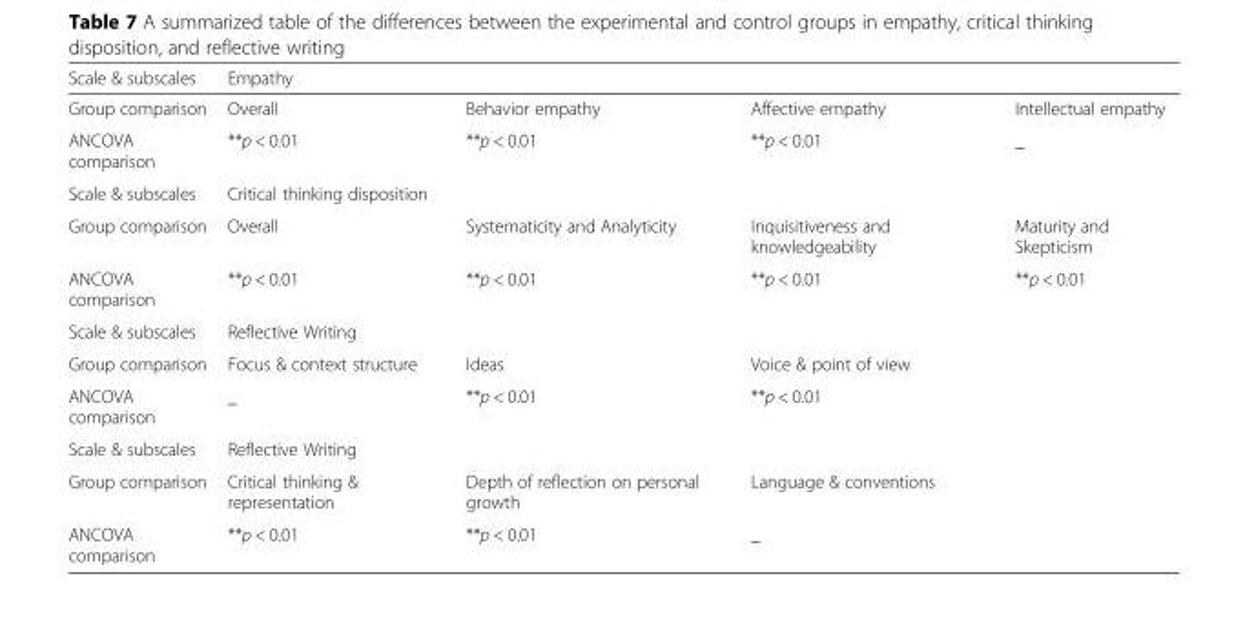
<table><thead><tr><td rowspan="2">Scale &amp; subscales Group comparison</td><td colspan="4">Empathy</td></tr><tr><td>Overall</td><td>Behavior empathy</td><td>Affective empathy</td><td>Intellectual empathy</td></tr></thead><tbody><tr><td>ANCOVA comparison</td><td>**p &lt; 0.01</td><td>**p &lt; 0.01</td><td>**p &lt; 0.01</td><td>_</td></tr><tr><td>Scale &amp; subscales</td><td colspan="4">Critical thinking disposition</td></tr><tr><td>Group comparison</td><td>Overall</td><td>Systematicity and Analyticity</td><td>Inquisitiveness and knowledgeability</td><td>Maturity and Skepticism</td></tr><tr><td>ANCOVA comparison</td><td>**p &lt; 0.01</td><td>**p &lt; 0.01</td><td>**p &lt; 0.01</td><td>**p &lt; 0.01</td></tr><tr><td>Scale &amp; subscales</td><td colspan="4">Reflective Writing</td></tr><tr><td>Group comparison</td><td>Focus &amp; context structure</td><td>Ideas</td><td>Voice &amp; point of view</td><td></td></tr><tr><td>ANCOVA comparison</td><td>_</td><td>**p &lt; 0.01</td><td>**p &lt; 0.01</td><td></td></tr><tr><td>Scale &amp; subscales</td><td colspan="3">Reflective Writing</td><td></td></tr><tr><td>Group comparison</td><td>Critical thinking &amp; representation</td><td>Depth of reflection on personal growth</td><td>Language &amp; conventions</td><td></td></tr><tr><td>ANCOVA comparison</td><td>**p &lt; 0.01</td><td>**p &lt; 0.01</td><td>_</td><td></td></tr></tbody></table>